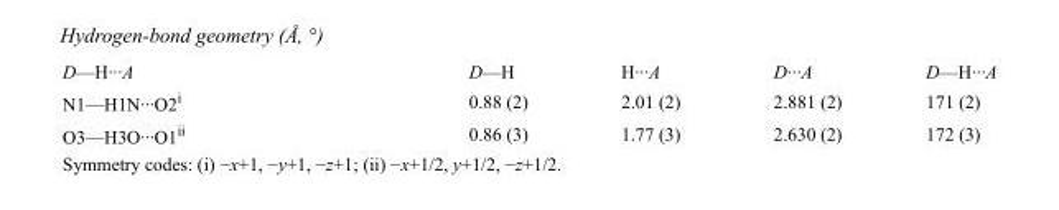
<table><tbody><tr><td>D—H···A</td><td>D—H</td><td>H···A</td><td>D···A</td><td>D—H···A</td></tr><tr><td>N1—H1N···O2<sup>i</sup></td><td>0.88 (2)</td><td>2.01 (2)</td><td>2.881 (2)</td><td>171 (2)</td></tr><tr><td>O3—H3O···O1<sup>ii</sup></td><td>0.86 (3)</td><td>1.77 (3)</td><td>2.630 (2)</td><td>172 (3)</td></tr></tbody></table>